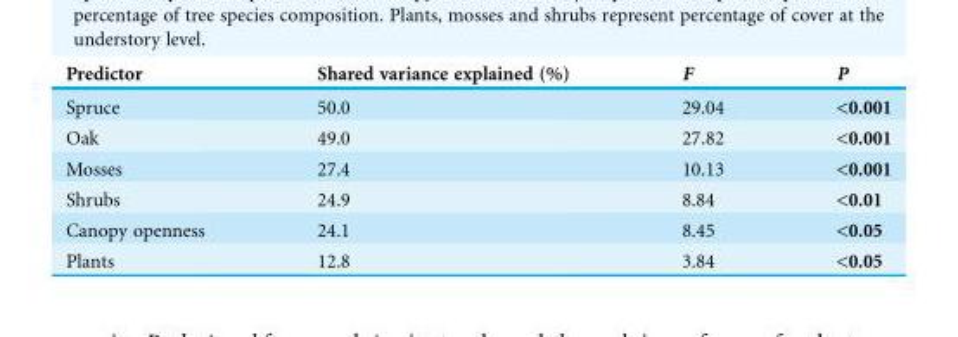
<table><thead><tr><td>Predictor</td><td>Shared variance explained (%)</td><td>F</td><td>P</td></tr></thead><tbody><tr><td>Spruce</td><td>50.0</td><td>29.04</td><td>&lt;0.001</td></tr><tr><td>Oak</td><td>49.0</td><td>27.82</td><td>&lt;0.001</td></tr><tr><td>Mosses</td><td>27.4</td><td>10.13</td><td>&lt;0.001</td></tr><tr><td>Shrubs</td><td>24.9</td><td>8.84</td><td>&lt;0.01</td></tr><tr><td>Canopy openness</td><td>24.1</td><td>8.45</td><td>&lt;0.05</td></tr><tr><td>Plants</td><td>12.8</td><td>3.84</td><td>&lt;0.05</td></tr></tbody></table>